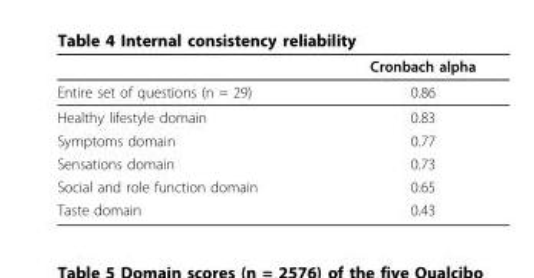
<table><thead><tr><td></td><td>Cronbach alpha</td></tr></thead><tbody><tr><td>Entire set of questions (n = 29)</td><td>0.86</td></tr><tr><td>Healthy lifestyle domain</td><td>0.83</td></tr><tr><td>Symptoms domain</td><td>0.77</td></tr><tr><td>Sensations domain</td><td>0.73</td></tr><tr><td>Social and role function domain</td><td>0.65</td></tr><tr><td>Taste domain</td><td>0.43</td></tr></tbody></table>